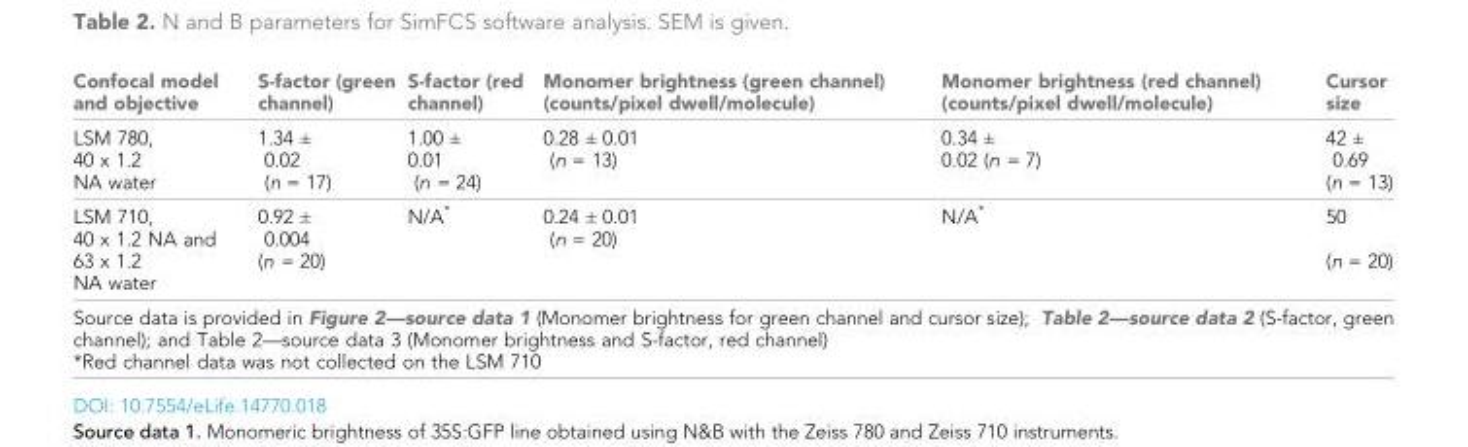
<table><thead><tr><td>Confocal model and objective</td><td>S-factor (green channel)</td><td>S-factor (red channel)</td><td>Monomer brightness (green channel) (counts/pixel dwell/molecule)</td><td>Monomer brightness (red channel) (counts/pixel dwell/molecule)</td><td>Cursor size</td></tr></thead><tbody><tr><td>LSM 780, 40 x 1.2 NA water</td><td>1.34 ± 0.02 (n = 17)</td><td>1.00 ± 0.01 (n = 24)</td><td>0.28 ± 0.01 (n = 13)</td><td>0.34 ± 0.02 (n = 7)</td><td>42 ± 0.69 (n = 13)</td></tr><tr><td>LSM 710, 40 x 1.2 NA and 63 x 1.2 NA water</td><td>0.92 ± 0.004 (n = 20)</td><td>N/A*</td><td>0.24 ± 0.01 (n = 20)</td><td>N/A*</td><td>50 (n = 20)</td></tr><tr><td colspan="6">Source data is provided in Figure 2—source data 1 (Monomer brightness for green channel and cursor size); Table 2—source data 2 (S-factor, green channel); and Table 2—source data 3 (Monomer brightness and S-factor, red channel) *Red channel data was not collected on the LSM 710</td></tr></tbody></table>